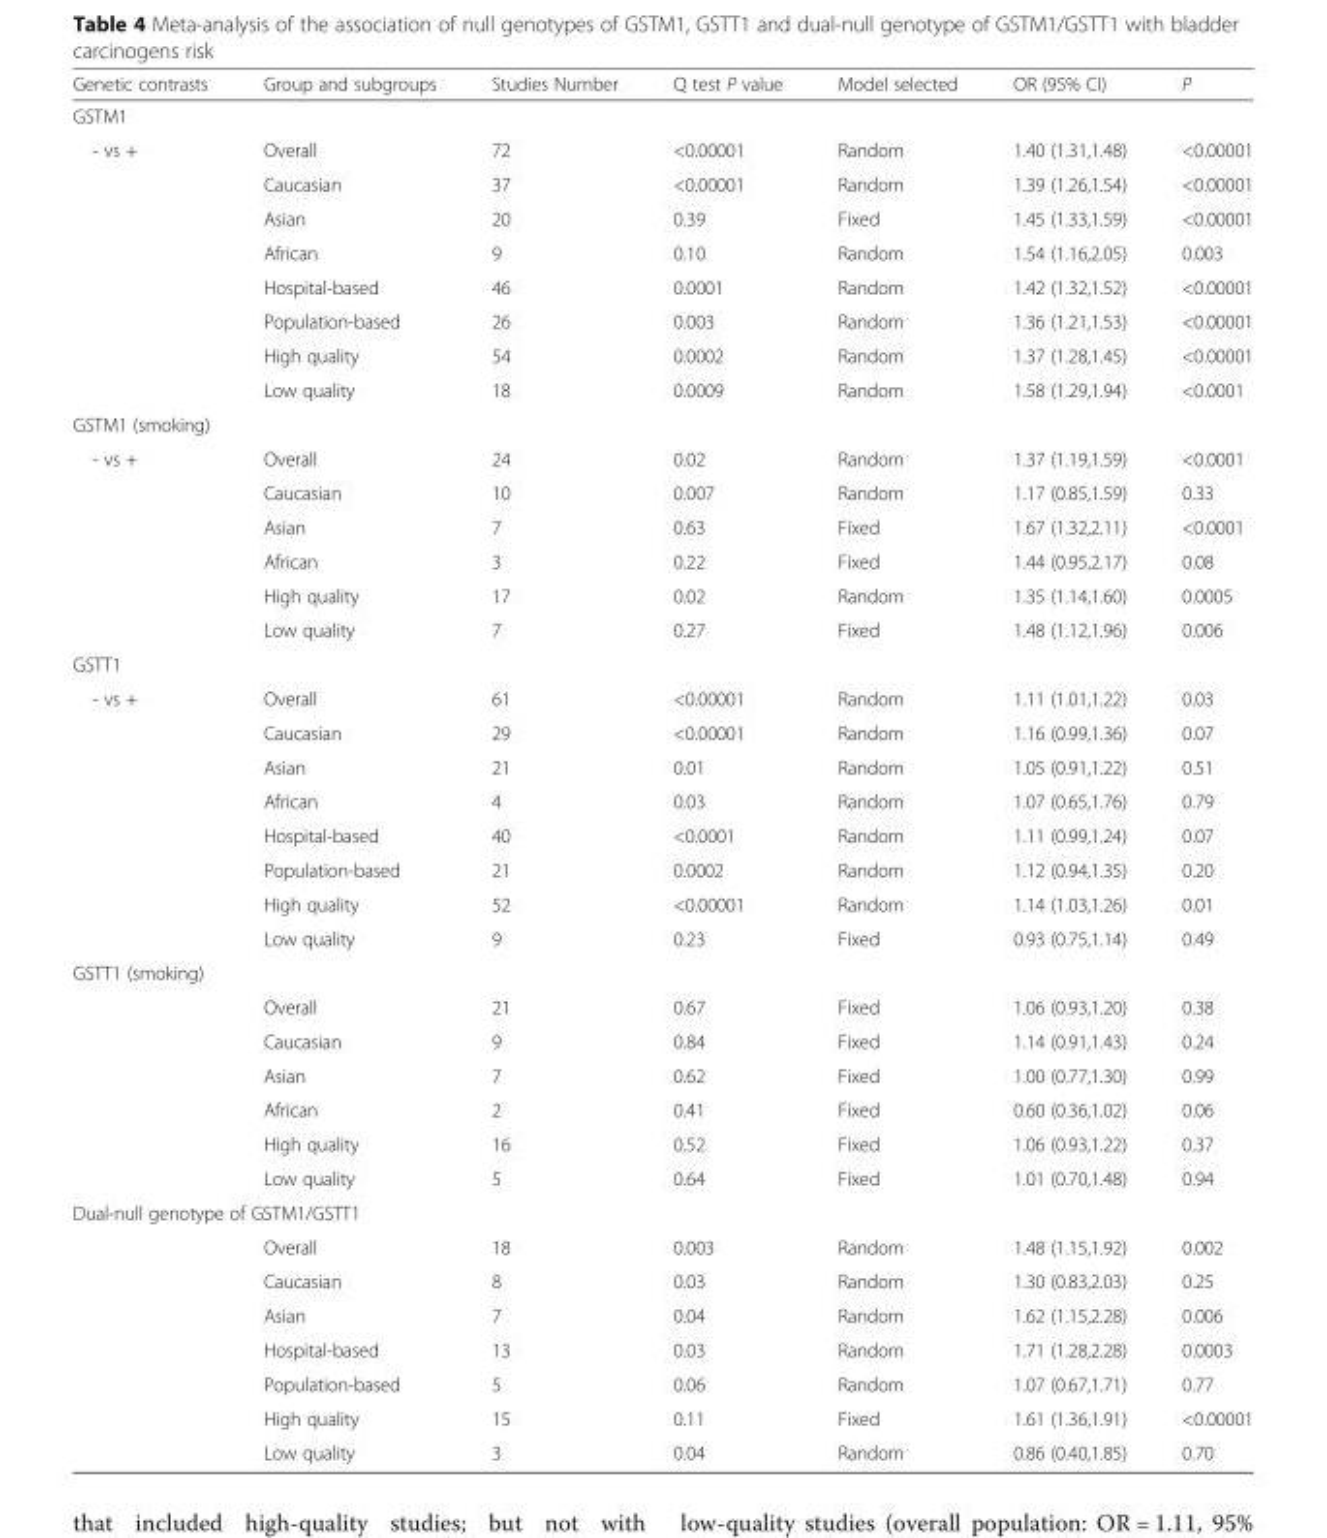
<table><thead><tr><td>Genetic contrasts</td><td>Group and subgroups</td><td>Studies Number</td><td>Q test P value</td><td>Model selected</td><td>OR (95% CI)</td><td>P</td></tr></thead><tbody><tr><td colspan="7">GSTM1</td></tr><tr><td rowspan="8">- vs +</td><td>Overall</td><td>72</td><td>&lt;0.00001</td><td>Random</td><td>1.40 (1.31,1.48)</td><td>&lt;0.00001</td></tr><tr><td>Caucasian</td><td>37</td><td>&lt;0.00001</td><td>Random</td><td>1.39 (1.26,1.54)</td><td>&lt;0.00001</td></tr><tr><td>Asian</td><td>20</td><td>0.39</td><td>Fixed</td><td>1.45 (1.33,1.59)</td><td>&lt;0.00001</td></tr><tr><td>African</td><td>9</td><td>0.10</td><td>Random</td><td>1.54 (1.16,2.05)</td><td>0.003</td></tr><tr><td>Hospital-based</td><td>46</td><td>0.0001</td><td>Random</td><td>1.42 (1.32,1.52)</td><td>&lt;0.00001</td></tr><tr><td>Population-based</td><td>26</td><td>0.003</td><td>Random</td><td>1.36 (1.21,1.53)</td><td>&lt;0.00001</td></tr><tr><td>High quality</td><td>54</td><td>0.0002</td><td>Random</td><td>1.37 (1.28,1.45)</td><td>&lt;0.00001</td></tr><tr><td>Low quality</td><td>18</td><td>0.0009</td><td>Random</td><td>1.58 (1.29,1.94)</td><td>&lt;0.0001</td></tr><tr><td colspan="7">GSTM1 (smoking)</td></tr><tr><td rowspan="6">- vs +</td><td>Overall</td><td>24</td><td>0.02</td><td>Random</td><td>1.37 (1.19,1.59)</td><td>&lt;0.0001</td></tr><tr><td>Caucasian</td><td>10</td><td>0.007</td><td>Random</td><td>1.17 (0.85,1.59)</td><td>0.33</td></tr><tr><td>Asian</td><td>7</td><td>0.63</td><td>Fixed</td><td>1.67 (1.32,2.11)</td><td>&lt;0.0001</td></tr><tr><td>African</td><td>3</td><td>0.22</td><td>Fixed</td><td>1.44 (0.95,2.17)</td><td>0.08</td></tr><tr><td>High quality</td><td>17</td><td>0.02</td><td>Random</td><td>1.35 (1.14,1.60)</td><td>0.0005</td></tr><tr><td>Low quality</td><td>7</td><td>0.27</td><td>Fixed</td><td>1.48 (1.12,1.96)</td><td>0.006</td></tr><tr><td colspan="7">GSTT1</td></tr><tr><td rowspan="8">- vs +</td><td>Overall</td><td>61</td><td>&lt;0.00001</td><td>Random</td><td>1.11 (1.01,1.22)</td><td>0.03</td></tr><tr><td>Caucasian</td><td>29</td><td>&lt;0.00001</td><td>Random</td><td>1.16 (0.99,1.36)</td><td>0.07</td></tr><tr><td>Asian</td><td>21</td><td>0.01</td><td>Random</td><td>1.05 (0.91,1.22)</td><td>0.51</td></tr><tr><td>African</td><td>4</td><td>0.03</td><td>Random</td><td>1.07 (0.65,1.76)</td><td>0.79</td></tr><tr><td>Hospital-based</td><td>40</td><td>&lt;0.0001</td><td>Random</td><td>1.11 (0.99,1.24)</td><td>0.07</td></tr><tr><td>Population-based</td><td>21</td><td>0.0002</td><td>Random</td><td>1.12 (0.94,1.35)</td><td>0.20</td></tr><tr><td>High quality</td><td>52</td><td>&lt;0.00001</td><td>Random</td><td>1.14 (1.03,1.26)</td><td>0.01</td></tr><tr><td>Low quality</td><td>9</td><td>0.23</td><td>Fixed</td><td>0.93 (0.75,1.14)</td><td>0.49</td></tr><tr><td colspan="7">GSTT1 (smoking)</td></tr><tr><td rowspan="6"></td><td>Overall</td><td>21</td><td>0.67</td><td>Fixed</td><td>1.06 (0.93,1.20)</td><td>0.38</td></tr><tr><td>Caucasian</td><td>9</td><td>0.84</td><td>Fixed</td><td>1.14 (0.91,1.43)</td><td>0.24</td></tr><tr><td>Asian</td><td>7</td><td>0.62</td><td>Fixed</td><td>1.00 (0.77,1.30)</td><td>0.99</td></tr><tr><td>African</td><td>2</td><td>0.41</td><td>Fixed</td><td>0.60 (0.36,1.02)</td><td>0.06</td></tr><tr><td>High quality</td><td>16</td><td>0.52</td><td>Fixed</td><td>1.06 (0.93,1.22)</td><td>0.37</td></tr><tr><td>Low quality</td><td>5</td><td>0.64</td><td>Fixed</td><td>1.01 (0.70,1.48)</td><td>0.94</td></tr><tr><td colspan="7">Dual-null genotype of GSTM1/GSTT1</td></tr><tr><td rowspan="7"></td><td>Overall</td><td>18</td><td>0.003</td><td>Random</td><td>1.48 (1.15,1.92)</td><td>0.002</td></tr><tr><td>Caucasian</td><td>8</td><td>0.03</td><td>Random</td><td>1.30 (0.83,2.03)</td><td>0.25</td></tr><tr><td>Asian</td><td>7</td><td>0.04</td><td>Random</td><td>1.62 (1.15,2.28)</td><td>0.006</td></tr><tr><td>Hospital-based</td><td>13</td><td>0.03</td><td>Random</td><td>1.71 (1.28,2.28)</td><td>0.0003</td></tr><tr><td>Population-based</td><td>5</td><td>0.06</td><td>Random</td><td>1.07 (0.67,1.71)</td><td>0.77</td></tr><tr><td>High quality</td><td>15</td><td>0.11</td><td>Fixed</td><td>1.61 (1.36,1.91)</td><td>&lt;0.00001</td></tr><tr><td>Low quality</td><td>3</td><td>0.04</td><td>Random</td><td>0.86 (0.40,1.85)</td><td>0.70</td></tr></tbody></table>